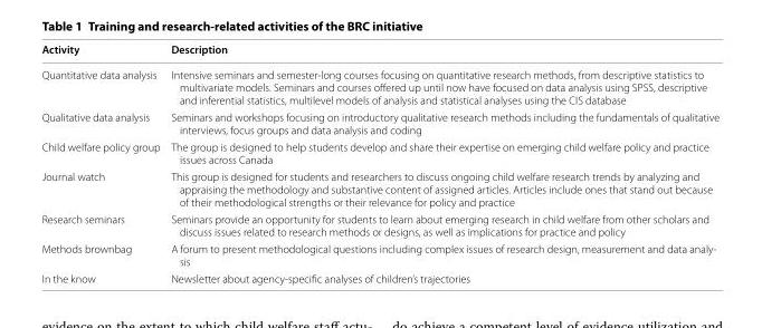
<table><thead><tr><td>Activity</td><td>Description</td></tr></thead><tbody><tr><td>Quantitative data analysis</td><td>Intensive seminars and semester-long courses focusing on quantitative research methods, from descriptive statistics to multivariate models. Seminars and courses offered up until now have focused on data analysis using SPSS, descriptive and inferential statistics, multilevel models of analysis and statistical analyses using the CIS database</td></tr><tr><td>Qualitative data analysis</td><td>Seminars and workshops focusing on introductory qualitative research methods including the fundamentals of qualitative interviews, focus groups and data analysis and coding</td></tr><tr><td>Child welfare policy group</td><td>The group is designed to help students develop and share their expertise on emerging child welfare policy and practice issues across Canada</td></tr><tr><td>Journal watch</td><td>This group is designed for students and researchers to discuss ongoing child welfare research trends by analyzing and appraising the methodology and substantive content of assigned articles. Articles include ones that stand out because of their methodological strengths or their relevance for policy and practice</td></tr><tr><td>Research seminars</td><td>Seminars provide an opportunity for students to learn about emerging research in child welfare from other scholars and discuss issues related to research methods or designs, as well as implications for practice and policy</td></tr><tr><td>Methods brownbag</td><td>A forum to present methodological questions including complex issues of research design, measurement and data analy- sis</td></tr><tr><td>In the know</td><td>Newsletter about agency-specific analyses of children’s trajectories</td></tr></tbody></table>